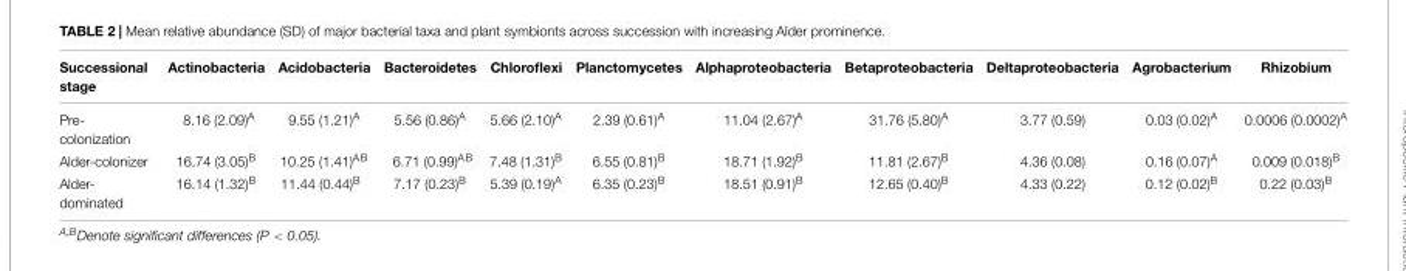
<table><thead><tr><td>Successional stage</td><td>Actinobacteria</td><td>Acidobacteria</td><td>Bacteroidetes</td><td>Chloroflexi</td><td>Planctomycetes</td><td>Alphaproteobacteria</td><td>Betaproteobacteria</td><td>Deltaproteobacteria</td><td>Agrobacterium</td><td>Rhizobium</td></tr></thead><tbody><tr><td>Pre- colonization</td><td>8.16 (2.09)<sup>A</sup></td><td>9.55 (1.21)<sup>A</sup></td><td>5.56 (0.86)<sup>A</sup></td><td>5.66 (2.10)<sup>A</sup></td><td>2.39 (0.61)<sup>A</sup></td><td>11.04 (2.67)<sup>A</sup></td><td>31.76 (5.80)<sup>A</sup></td><td>3.77 (0.59)</td><td>0.03 (0.02)<sup>A</sup></td><td>0.0006 (0.0002)<sup>A</sup></td></tr><tr><td>Alder-colonizer</td><td>16.74 (3.05)<sup>B</sup></td><td>10.25 (1.41)<sup>AB</sup></td><td>6.71 (0.99)<sup>AB</sup></td><td>7.48 (1.31)<sup>B</sup></td><td>6.55 (0.81)<sup>B</sup></td><td>18.71 (1.92)<sup>B</sup></td><td>11.81 (2.67)<sup>B</sup></td><td>4.36 (0.08)</td><td>0.16 (0.07)<sup>A</sup></td><td>0.009 (0.018)<sup>B</sup></td></tr><tr><td>Alder- dominated</td><td>16.14 (1.32)<sup>B</sup></td><td>11.44 (0.44)<sup>B</sup></td><td>7.17 (0.23)<sup>B</sup></td><td>5.39 (0.19)<sup>A</sup></td><td>6.35 (0.23)<sup>B</sup></td><td>18.51 (0.91)<sup>B</sup></td><td>12.65 (0.40)<sup>B</sup></td><td>4.33 (0.22)</td><td>0.12 (0.02)<sup>B</sup></td><td>0.22 (0.03)<sup>B</sup></td></tr></tbody></table>